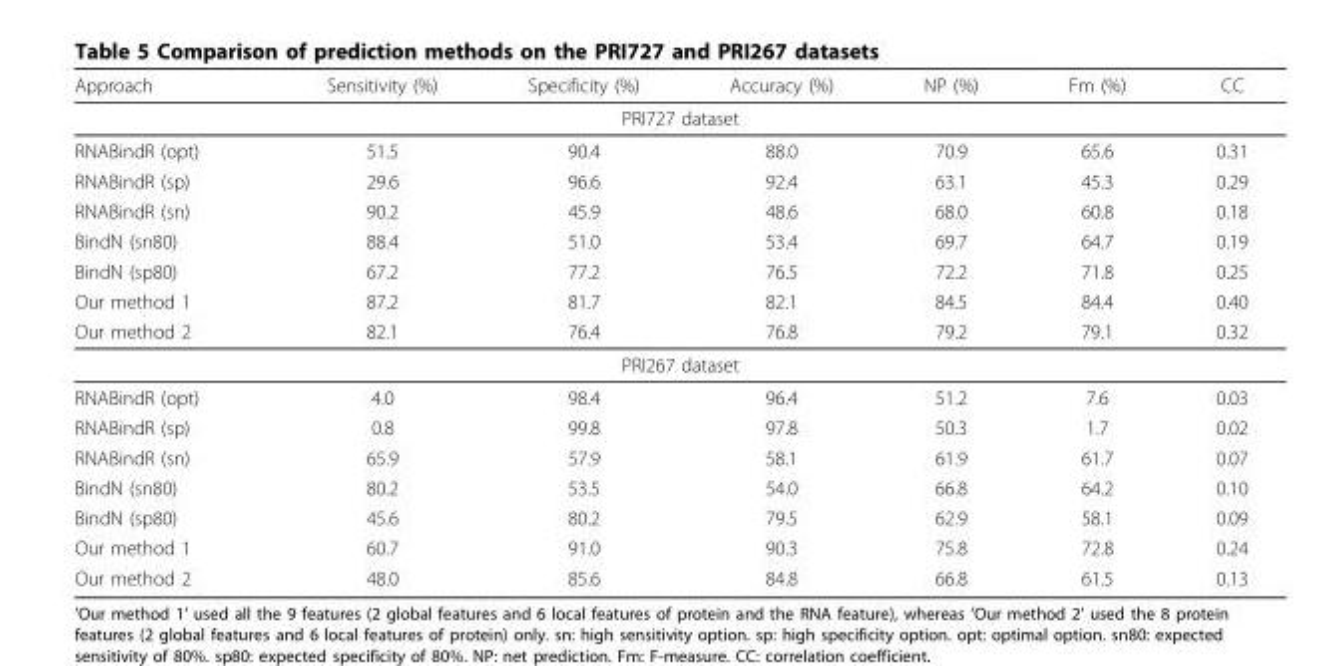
<table><thead><tr><td>Approach</td><td>Sensitivity (%)</td><td>Specificity (%)</td><td>Accuracy (%)</td><td>NP (%)</td><td>Fm (%)</td><td>CC</td></tr></thead><tbody><tr><td colspan="7">PRI727 dataset</td></tr><tr><td>RNABindR (opt)</td><td>51.5</td><td>90.4</td><td>88.0</td><td>70.9</td><td>65.6</td><td>0.31</td></tr><tr><td>RNABindR (sp)</td><td>29.6</td><td>96.6</td><td>92.4</td><td>63.1</td><td>45.3</td><td>0.29</td></tr><tr><td>RNABindR (sn)</td><td>90.2</td><td>45.9</td><td>48.6</td><td>68.0</td><td>60.8</td><td>0.18</td></tr><tr><td>BindN (sn80)</td><td>88.4</td><td>51.0</td><td>53.4</td><td>69.7</td><td>64.7</td><td>0.19</td></tr><tr><td>BindN (sp80)</td><td>67.2</td><td>77.2</td><td>76.5</td><td>72.2</td><td>71.8</td><td>0.25</td></tr><tr><td>Our method 1</td><td>87.2</td><td>81.7</td><td>82.1</td><td>84.5</td><td>84.4</td><td>0.40</td></tr><tr><td>Our method 2</td><td>82.1</td><td>76.4</td><td>76.8</td><td>79.2</td><td>79.1</td><td>0.32</td></tr><tr><td colspan="7">PRI267 dataset</td></tr><tr><td>RNABindR (opt)</td><td>4.0</td><td>98.4</td><td>96.4</td><td>51.2</td><td>7.6</td><td>0.03</td></tr><tr><td>RNABindR (sp)</td><td>0.8</td><td>99.8</td><td>97.8</td><td>50.3</td><td>1.7</td><td>0.02</td></tr><tr><td>RNABindR (sn)</td><td>65.9</td><td>57.9</td><td>58.1</td><td>61.9</td><td>61.7</td><td>0.07</td></tr><tr><td>BindN (sn80)</td><td>80.2</td><td>53.5</td><td>54.0</td><td>66.8</td><td>64.2</td><td>0.10</td></tr><tr><td>BindN (sp80)</td><td>45.6</td><td>80.2</td><td>79.5</td><td>62.9</td><td>58.1</td><td>0.09</td></tr><tr><td>Our method 1</td><td>60.7</td><td>91.0</td><td>90.3</td><td>75.8</td><td>72.8</td><td>0.24</td></tr><tr><td>Our method 2</td><td>48.0</td><td>85.6</td><td>84.8</td><td>66.8</td><td>61.5</td><td>0.13</td></tr></tbody></table>